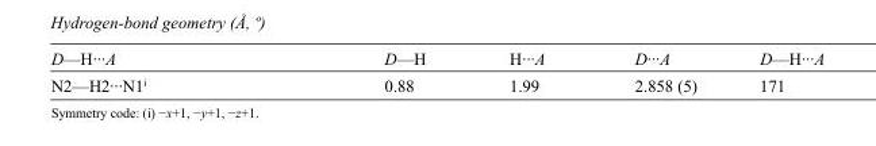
<table><tbody><tr><td>D—H···A</td><td>D—H</td><td>H···A</td><td>D···A</td><td>D—H···A</td></tr><tr><td>N2—H2···N1<sup>i</sup></td><td>0.88</td><td>1.99</td><td>2.858 (5)</td><td>171</td></tr></tbody></table>